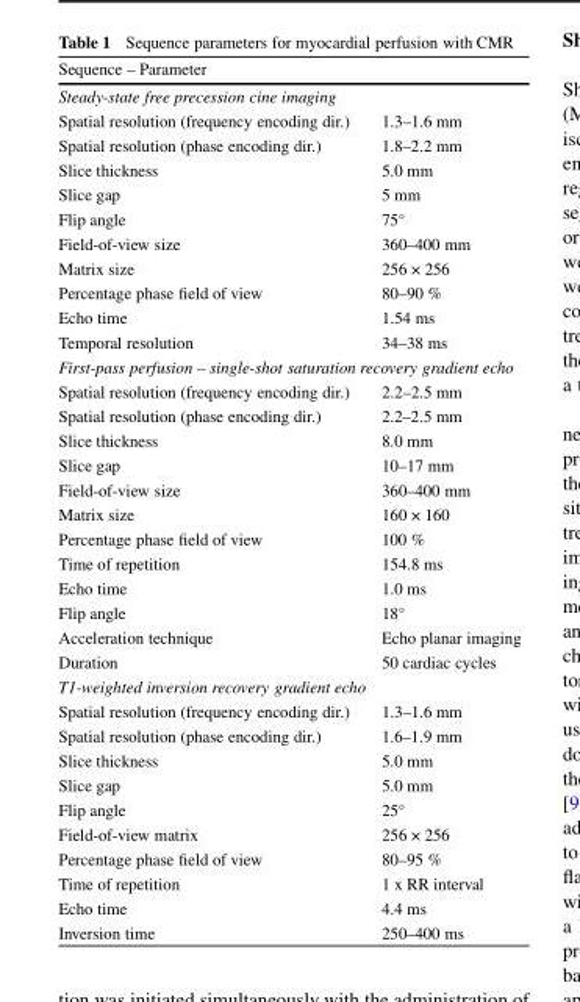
<table><thead><tr><td>Sequence – Parameter</td><td></td></tr></thead><tbody><tr><td colspan="2">Steady-state free precession cine imaging</td></tr><tr><td>Spatial resolution (frequency encoding dir.)</td><td>1.3–1.6 mm</td></tr><tr><td>Spatial resolution (phase encoding dir.)</td><td>1.8–2.2 mm</td></tr><tr><td>Slice thickness</td><td>5.0 mm</td></tr><tr><td>Slice gap</td><td>5 mm</td></tr><tr><td>Flip angle</td><td>75°</td></tr><tr><td>Field-of-view size</td><td>360–400 mm</td></tr><tr><td>Matrix size</td><td>256 × 256</td></tr><tr><td>Percentage phase field of view</td><td>80–90 %</td></tr><tr><td>Echo time</td><td>1.54 ms</td></tr><tr><td>Temporal resolution</td><td>34–38 ms</td></tr><tr><td colspan="2">First-pass perfusion – single-shot saturation recovery gradient echo</td></tr><tr><td>Spatial resolution (frequency encoding dir.)</td><td>2.2–2.5 mm</td></tr><tr><td>Spatial resolution (phase encoding dir.)</td><td>2.2–2.5 mm</td></tr><tr><td>Slice thickness</td><td>8.0 mm</td></tr><tr><td>Slice gap</td><td>10–17 mm</td></tr><tr><td>Field-of-view size</td><td>360–400 mm</td></tr><tr><td>Matrix size</td><td>160 × 160</td></tr><tr><td>Percentage phase field of view</td><td>100 %</td></tr><tr><td>Time of repetition</td><td>154.8 ms</td></tr><tr><td>Echo time</td><td>1.0 ms</td></tr><tr><td>Flip angle</td><td>18°</td></tr><tr><td>Acceleration technique</td><td>Echo planar imaging</td></tr><tr><td>Duration</td><td>50 cardiac cycles</td></tr><tr><td colspan="2">T1-weighted inversion recovery gradient echo</td></tr><tr><td>Spatial resolution (frequency encoding dir.)</td><td>1.3–1.6 mm</td></tr><tr><td>Spatial resolution (phase encoding dir.)</td><td>1.6–1.9 mm</td></tr><tr><td>Slice thickness</td><td>5.0 mm</td></tr><tr><td>Slice gap</td><td>5.0 mm</td></tr><tr><td>Flip angle</td><td>25°</td></tr><tr><td>Field-of-view matrix</td><td>256 × 256</td></tr><tr><td>Percentage phase field of view</td><td>80–95 %</td></tr><tr><td>Time of repetition</td><td>1 x RR interval</td></tr><tr><td>Echo time</td><td>4.4 ms</td></tr><tr><td>Inversion time</td><td>250–400 ms</td></tr></tbody></table>